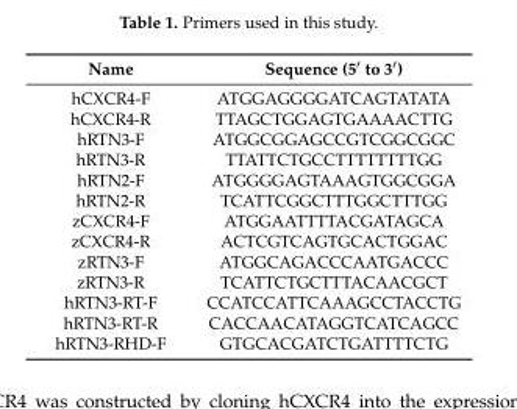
<table><thead><tr><td>Name</td><td>Sequence (5′ to 3′)</td></tr></thead><tbody><tr><td>hCXCR4-F</td><td>ATGGAGGGGATCAGTATATA</td></tr><tr><td>hCXCR4-R</td><td>TTAGCTGGAGTGAAAACTTG</td></tr><tr><td>hRTN3-F</td><td>ATGGCGGAGCCGTCGGCGGC</td></tr><tr><td>hRTN3-R</td><td>TTATTCTGCCTTTTTTTTGG</td></tr><tr><td>hRTN2-F</td><td>ATGGGGAGTAAAGTGGCGGA</td></tr><tr><td>hRTN2-R</td><td>TCATTCGGCTTTGGCTTTGG</td></tr><tr><td>zCXCR4-F</td><td>ATGGAATTTTACGATAGCA</td></tr><tr><td>zCXCR4-R</td><td>ACTCGTCAGTGCACTGGAC</td></tr><tr><td>zRTN3-F</td><td>ATGGCAGACCCAATGACCC</td></tr><tr><td>zRTN3-R</td><td>TCATTCTGCTTTACAACGCT</td></tr><tr><td>hRTN3-RT-F</td><td>CCATCCATTCAAAGCCTACCTG</td></tr><tr><td>hRTN3-RT-R</td><td>CACCAACATAGGTCATCAGCC</td></tr><tr><td>hRTN3-RHD-F</td><td>GTGCACGATCTGATTTTCTG</td></tr></tbody></table>